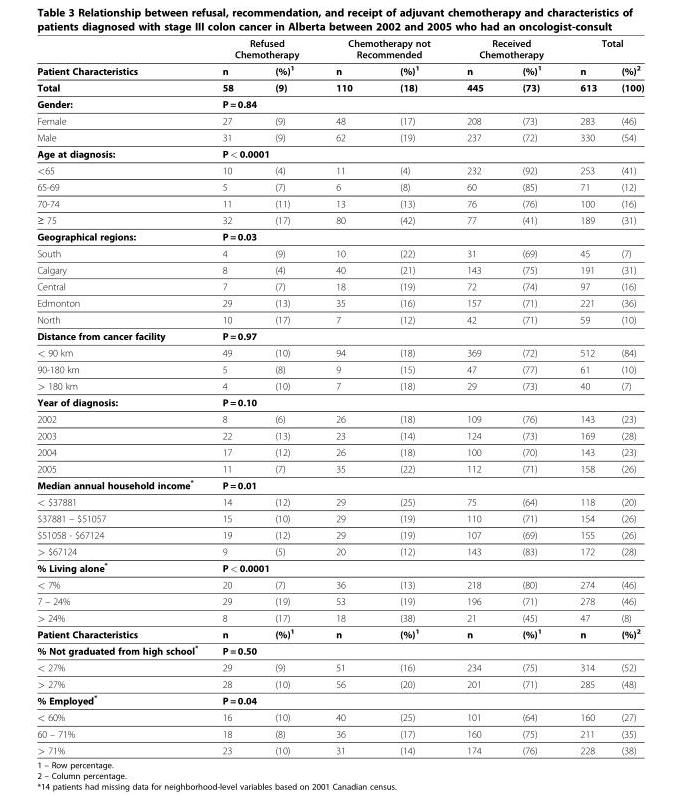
<table><thead><tr><td rowspan="2">Patient Characteristics</td><td colspan="2">Refused Chemotherapy</td><td colspan="2">Chemotherapy not Recommended</td><td colspan="2">Received Chemotherapy</td><td colspan="2">Total</td></tr><tr><td>n</td><td>(%)<sup>1</sup></td><td>n</td><td>(%)<sup>1</sup></td><td>n</td><td>(%)<sup>1</sup></td><td>n</td><td>(%)<sup>2</sup></td></tr></thead><tbody><tr><td>Total</td><td>58</td><td>(9)</td><td>110</td><td>(18)</td><td>445</td><td>(73)</td><td>613</td><td>(100)</td></tr><tr><td>Gender:</td><td colspan="2">P = 0.84</td><td></td><td></td><td></td><td></td><td></td><td></td></tr><tr><td>Female</td><td>27</td><td>(9)</td><td>48</td><td>(17)</td><td>208</td><td>(73)</td><td>283</td><td>(46)</td></tr><tr><td>Male</td><td>31</td><td>(9)</td><td>62</td><td>(19)</td><td>237</td><td>(72)</td><td>330</td><td>(54)</td></tr><tr><td>Age at diagnosis:</td><td colspan="2">P &lt; 0.0001</td><td></td><td></td><td></td><td></td><td></td><td></td></tr><tr><td>&lt;65</td><td>10</td><td>(4)</td><td>11</td><td>(4)</td><td>232</td><td>(92)</td><td>253</td><td>(41)</td></tr><tr><td>65-69</td><td>5</td><td>(7)</td><td>6</td><td>(8)</td><td>60</td><td>(85)</td><td>71</td><td>(12)</td></tr><tr><td>70-74</td><td>11</td><td>(11)</td><td>13</td><td>(13)</td><td>76</td><td>(76)</td><td>100</td><td>(16)</td></tr><tr><td>≥ 75</td><td>32</td><td>(17)</td><td>80</td><td>(42)</td><td>77</td><td>(41)</td><td>189</td><td>(31)</td></tr><tr><td>Geographical regions:</td><td colspan="2">P = 0.03</td><td></td><td></td><td></td><td></td><td></td><td></td></tr><tr><td>South</td><td>4</td><td>(9)</td><td>10</td><td>(22)</td><td>31</td><td>(69)</td><td>45</td><td>(7)</td></tr><tr><td>Calgary</td><td>8</td><td>(4)</td><td>40</td><td>(21)</td><td>143</td><td>(75)</td><td>191</td><td>(31)</td></tr><tr><td>Central</td><td>7</td><td>(7)</td><td>18</td><td>(19)</td><td>72</td><td>(74)</td><td>97</td><td>(16)</td></tr><tr><td>Edmonton</td><td>29</td><td>(13)</td><td>35</td><td>(16)</td><td>157</td><td>(71)</td><td>221</td><td>(36)</td></tr><tr><td>North</td><td>10</td><td>(17)</td><td>7</td><td>(12)</td><td>42</td><td>(71)</td><td>59</td><td>(10)</td></tr><tr><td>Distance from cancer facility</td><td colspan="2">P = 0.97</td><td></td><td></td><td></td><td></td><td></td><td></td></tr><tr><td>&lt; 90 km</td><td>49</td><td>(10)</td><td>94</td><td>(18)</td><td>369</td><td>(72)</td><td>512</td><td>(84)</td></tr><tr><td>90-180 km</td><td>5</td><td>(8)</td><td>9</td><td>(15)</td><td>47</td><td>(77)</td><td>61</td><td>(10)</td></tr><tr><td>&gt; 180 km</td><td>4</td><td>(10)</td><td>7</td><td>(18)</td><td>29</td><td>(73)</td><td>40</td><td>(7)</td></tr><tr><td>Year of diagnosis:</td><td colspan="2">P = 0.10</td><td></td><td></td><td></td><td></td><td></td><td></td></tr><tr><td>2002</td><td>8</td><td>(6)</td><td>26</td><td>(18)</td><td>109</td><td>(76)</td><td>143</td><td>(23)</td></tr><tr><td>2003</td><td>22</td><td>(13)</td><td>23</td><td>(14)</td><td>124</td><td>(73)</td><td>169</td><td>(28)</td></tr><tr><td>2004</td><td>17</td><td>(12)</td><td>26</td><td>(18)</td><td>100</td><td>(70)</td><td>143</td><td>(23)</td></tr><tr><td>2005</td><td>11</td><td>(7)</td><td>35</td><td>(22)</td><td>112</td><td>(71)</td><td>158</td><td>(26)</td></tr><tr><td>Median annual household income*</td><td colspan="2">P = 0.01</td><td></td><td></td><td></td><td></td><td></td><td></td></tr><tr><td>&lt; $37881</td><td>14</td><td>(12)</td><td>29</td><td>(25)</td><td>75</td><td>(64)</td><td>118</td><td>(20)</td></tr><tr><td>$37881 – $51057</td><td>15</td><td>(10)</td><td>29</td><td>(19)</td><td>110</td><td>(71)</td><td>154</td><td>(26)</td></tr><tr><td>$51058 - $67124</td><td>19</td><td>(12)</td><td>29</td><td>(19)</td><td>107</td><td>(69)</td><td>155</td><td>(26)</td></tr><tr><td>&gt; $67124</td><td>9</td><td>(5)</td><td>20</td><td>(12)</td><td>143</td><td>(83)</td><td>172</td><td>(28)</td></tr><tr><td>% Living alone*</td><td colspan="2">P &lt; 0.0001</td><td></td><td></td><td></td><td></td><td></td><td></td></tr><tr><td>&lt; 7%</td><td>20</td><td>(7)</td><td>36</td><td>(13)</td><td>218</td><td>(80)</td><td>274</td><td>(46)</td></tr><tr><td>7 – 24%</td><td>29</td><td>(19)</td><td>53</td><td>(19)</td><td>196</td><td>(71)</td><td>278</td><td>(46)</td></tr><tr><td>&gt; 24%</td><td>8</td><td>(17)</td><td>18</td><td>(38)</td><td>21</td><td>(45)</td><td>47</td><td>(8)</td></tr><tr><td>Patient Characteristics</td><td>n</td><td>(%)<sup>1</sup></td><td>n</td><td>(%)<sup>1</sup></td><td>n</td><td>(%)<sup>1</sup></td><td>n</td><td>(%)<sup>2</sup></td></tr><tr><td>% Not graduated from high school*</td><td colspan="2">P = 0.50</td><td></td><td></td><td></td><td></td><td></td><td></td></tr><tr><td>&lt; 27%</td><td>29</td><td>(9)</td><td>51</td><td>(16)</td><td>234</td><td>(75)</td><td>314</td><td>(52)</td></tr><tr><td>&gt; 27%</td><td>28</td><td>(10)</td><td>56</td><td>(20)</td><td>201</td><td>(71)</td><td>285</td><td>(48)</td></tr><tr><td>% Employed*</td><td colspan="2">P = 0.04</td><td></td><td></td><td></td><td></td><td></td><td></td></tr><tr><td>&lt; 60%</td><td>16</td><td>(10)</td><td>40</td><td>(25)</td><td>101</td><td>(64)</td><td>160</td><td>(27)</td></tr><tr><td>60 – 71%</td><td>18</td><td>(8)</td><td>36</td><td>(17)</td><td>160</td><td>(75)</td><td>211</td><td>(35)</td></tr><tr><td>&gt; 71%</td><td>23</td><td>(10)</td><td>31</td><td>(14)</td><td>174</td><td>(76)</td><td>228</td><td>(38)</td></tr></tbody></table>